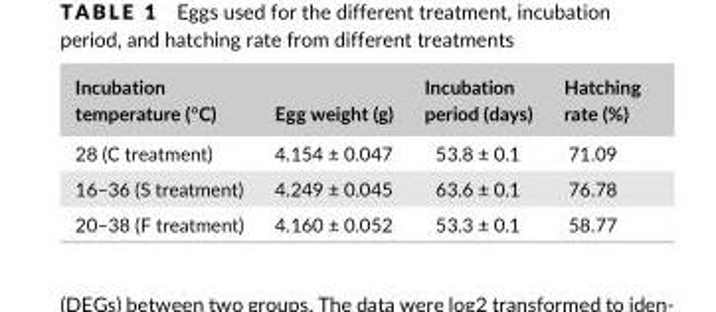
<table><thead><tr><td>Incubation temperature (°C)</td><td>Egg weight (g)</td><td>Incubation period (days)</td><td>Hatching rate (%)</td></tr></thead><tbody><tr><td>28 (C treatment)</td><td>4.154 ± 0.047</td><td>53.8 ± 0.1</td><td>71.09</td></tr><tr><td>16–36 (S treatment)</td><td>4.249 ± 0.045</td><td>63.6 ± 0.1</td><td>76.78</td></tr><tr><td>20–38 (F treatment)</td><td>4.160 ± 0.052</td><td>53.3 ± 0.1</td><td>58.77</td></tr></tbody></table>